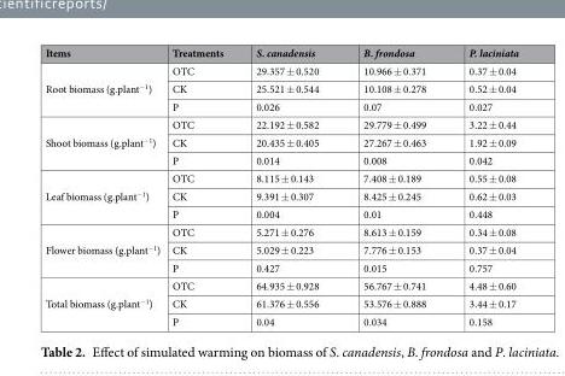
<table><thead><tr><td>Items</td><td>Treatments</td><td>S. canadensis</td><td>B. frondosa</td><td>P. laciniata</td></tr></thead><tbody><tr><td rowspan="3">Root biomass (g.plant<sup>−1</sup>)</td><td>OTC</td><td>29.357 ± 0.520</td><td>10.966 ± 0.371</td><td>0.37 ± 0.04</td></tr><tr><td>CK</td><td>25.521 ± 0.544</td><td>10.108 ± 0.278</td><td>0.52 ± 0.04</td></tr><tr><td>P</td><td>0.026</td><td>0.07</td><td>0.027</td></tr><tr><td rowspan="3">Shoot biomass (g.plant<sup>−1</sup>)</td><td>OTC</td><td>22.192 ± 0.582</td><td>29.779 ± 0.499</td><td>3.22 ± 0.44</td></tr><tr><td>CK</td><td>20.435 ± 0.405</td><td>27.267 ± 0.463</td><td>1.92 ± 0.09</td></tr><tr><td>P</td><td>0.014</td><td>0.008</td><td>0.042</td></tr><tr><td rowspan="3">Leaf biomass (g.plant<sup>−1</sup>)</td><td>OTC</td><td>8.115 ± 0.143</td><td>7.408 ± 0.189</td><td>0.55 ± 0.08</td></tr><tr><td>CK</td><td>9.391 ± 0.307</td><td>8.425 ± 0.245</td><td>0.62 ± 0.03</td></tr><tr><td>P</td><td>0.004</td><td>0.01</td><td>0.448</td></tr><tr><td rowspan="3">Flower biomass (g.plant<sup>−1</sup>)</td><td>OTC</td><td>5.271 ± 0.276</td><td>8.613 ± 0.159</td><td>0.34 ± 0.08</td></tr><tr><td>CK</td><td>5.029 ± 0.223</td><td>7.776 ± 0.153</td><td>0.37 ± 0.04</td></tr><tr><td>P</td><td>0.427</td><td>0.015</td><td>0.757</td></tr><tr><td rowspan="3">Total biomass (g.plant<sup>−1</sup>)</td><td>OTC</td><td>64.935 ± 0.928</td><td>56.767 ± 0.741</td><td>4.48 ± 0.60</td></tr><tr><td>CK</td><td>61.376 ± 0.556</td><td>53.576 ± 0.888</td><td>3.44 ± 0.17</td></tr><tr><td>P</td><td>0.04</td><td>0.034</td><td>0.158</td></tr></tbody></table>